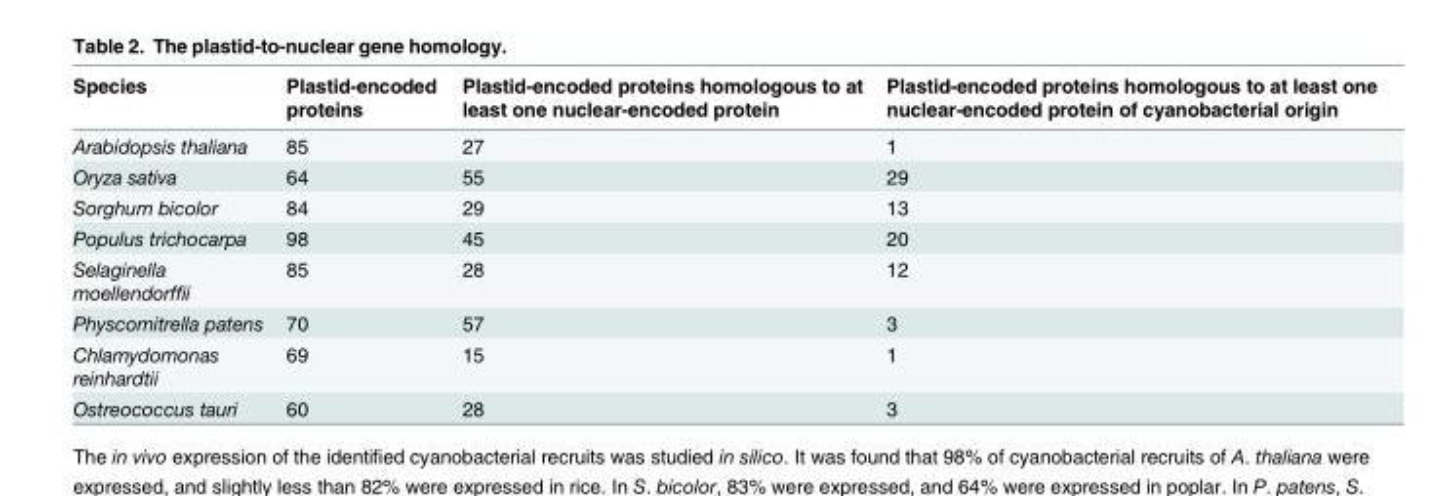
<table><thead><tr><td>Species</td><td>Plastid-encoded proteins</td><td>Plastid-encoded proteins homologous to at least one nuclear-encoded protein</td><td>Plastid-encoded proteins homologous to at least one nuclear-encoded protein of cyanobacterial origin</td></tr></thead><tbody><tr><td>Arabidopsis thaliana</td><td>85</td><td>27</td><td>1</td></tr><tr><td>Oryza sativa</td><td>64</td><td>55</td><td>29</td></tr><tr><td>Sorghum bicolor</td><td>84</td><td>29</td><td>13</td></tr><tr><td>Populus trichocarpa</td><td>98</td><td>45</td><td>20</td></tr><tr><td>Selaginella moellendorffii</td><td>85</td><td>28</td><td>12</td></tr><tr><td>Physcomitrella patens</td><td>70</td><td>57</td><td>3</td></tr><tr><td>Chlamydomonas reinhardtii</td><td>69</td><td>15</td><td>1</td></tr><tr><td>Ostreococcus tauri</td><td>60</td><td>28</td><td>3</td></tr></tbody></table>